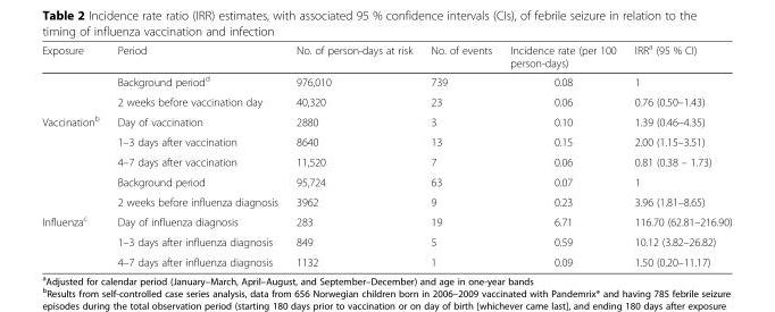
<table><thead><tr><td>Exposure</td><td>Period</td><td>No. of person-days at risk</td><td>No. of events</td><td>Incidence rate (per 100 person-days)</td><td>IRR<sup>a</sup> (95 % CI)</td></tr></thead><tbody><tr><td></td><td>Background period<sup>d</sup></td><td>976,010</td><td>739</td><td>0.08</td><td>1</td></tr><tr><td></td><td>2 weeks before vaccination day</td><td>40,320</td><td>23</td><td>0.06</td><td>0.76 (0.50–1.43)</td></tr><tr><td rowspan="5">Vaccination<sup>b</sup></td><td>Day of vaccination</td><td>2880</td><td>3</td><td>0.10</td><td>1.39 (0.46–4.35)</td></tr><tr><td>1–3 days after vaccination</td><td>8640</td><td>13</td><td>0.15</td><td>2.00 (1.15–3.51)</td></tr><tr><td>4–7 days after vaccination</td><td>11,520</td><td>7</td><td>0.06</td><td>0.81 (0.38 – 1.73)</td></tr><tr><td>Background period</td><td>95,724</td><td>63</td><td>0.07</td><td>1</td></tr><tr><td>2 weeks before influenza diagnosis</td><td>3962</td><td>9</td><td>0.23</td><td>3.96 (1.81–8.65)</td></tr><tr><td rowspan="3">Influenza<sup>c</sup></td><td>Day of influenza diagnosis</td><td>283</td><td>19</td><td>6.71</td><td>116.70 (62.81–216.90)</td></tr><tr><td>1–3 days after influenza diagnosis</td><td>849</td><td>5</td><td>0.59</td><td>10.12 (3.82–26.82)</td></tr><tr><td>4–7 days after influenza diagnosis</td><td>1132</td><td>1</td><td>0.09</td><td>1.50 (0.20–11.17)</td></tr></tbody></table>